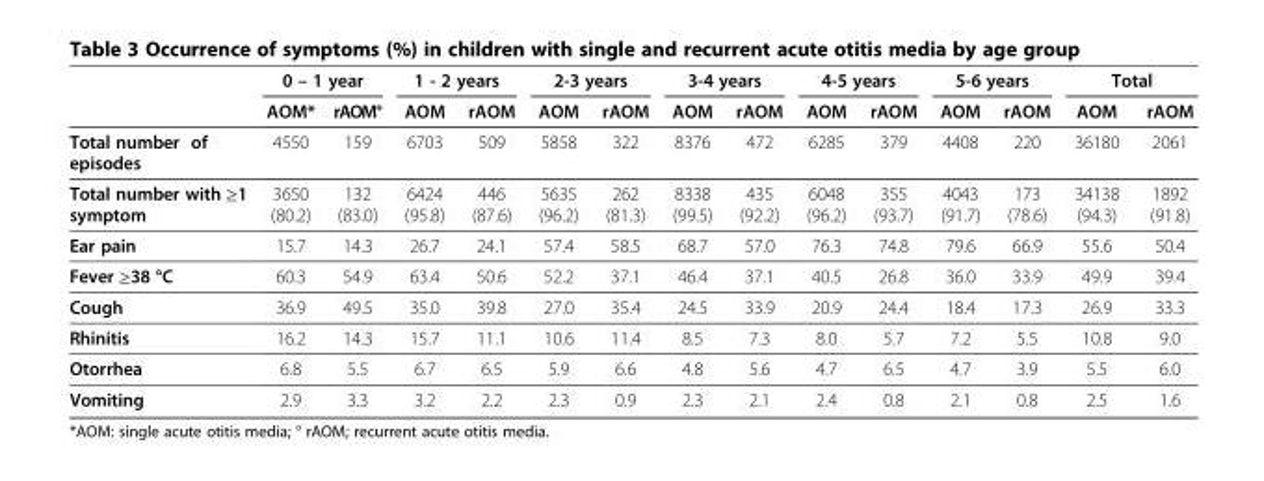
<table><thead><tr><td rowspan="2"></td><td colspan="2">0 – 1 year</td><td colspan="2">1 - 2 years</td><td colspan="2">2-3 years</td><td colspan="2">3-4 years</td><td colspan="2">4-5 years</td><td colspan="2">5-6 years</td><td colspan="2">Total</td></tr><tr><td>AOM*</td><td>rAOM°</td><td>AOM</td><td>rAOM</td><td>AOM</td><td>rAOM</td><td>AOM</td><td>rAOM</td><td>AOM</td><td>rAOM</td><td>AOM</td><td>rAOM</td><td>AOM</td><td>rAOM</td></tr></thead><tbody><tr><td>Total number of episodes</td><td>4550</td><td>159</td><td>6703</td><td>509</td><td>5858</td><td>322</td><td>8376</td><td>472</td><td>6285</td><td>379</td><td>4408</td><td>220</td><td>36180</td><td>2061</td></tr><tr><td>Total number with ≥1 symptom</td><td>3650 (80.2)</td><td>132 (83.0)</td><td>6424 (95.8)</td><td>446 (87.6)</td><td>5635 (96.2)</td><td>262 (81.3)</td><td>8338 (99.5)</td><td>435 (92.2)</td><td>6048 (96.2)</td><td>355 (93.7)</td><td>4043 (91.7)</td><td>173 (78.6)</td><td>34138 (94.3)</td><td>1892 (91.8)</td></tr><tr><td>Ear pain</td><td>15.7</td><td>14.3</td><td>26.7</td><td>24.1</td><td>57.4</td><td>58.5</td><td>68.7</td><td>57.0</td><td>76.3</td><td>74.8</td><td>79.6</td><td>66.9</td><td>55.6</td><td>50.4</td></tr><tr><td>Fever ≥38 °C</td><td>60.3</td><td>54.9</td><td>63.4</td><td>50.6</td><td>52.2</td><td>37.1</td><td>46.4</td><td>37.1</td><td>40.5</td><td>26.8</td><td>36.0</td><td>33.9</td><td>49.9</td><td>39.4</td></tr><tr><td>Cough</td><td>36.9</td><td>49.5</td><td>35.0</td><td>39.8</td><td>27.0</td><td>35.4</td><td>24.5</td><td>33.9</td><td>20.9</td><td>24.4</td><td>18.4</td><td>17.3</td><td>26.9</td><td>33.3</td></tr><tr><td>Rhinitis</td><td>16.2</td><td>14.3</td><td>15.7</td><td>11.1</td><td>10.6</td><td>11.4</td><td>8.5</td><td>7.3</td><td>8.0</td><td>5.7</td><td>7.2</td><td>5.5</td><td>10.8</td><td>9.0</td></tr><tr><td>Otorrhea</td><td>6.8</td><td>5.5</td><td>6.7</td><td>6.5</td><td>5.9</td><td>6.6</td><td>4.8</td><td>5.6</td><td>4.7</td><td>6.5</td><td>4.7</td><td>3.9</td><td>5.5</td><td>6.0</td></tr><tr><td>Vomiting</td><td>2.9</td><td>3.3</td><td>3.2</td><td>2.2</td><td>2.3</td><td>0.9</td><td>2.3</td><td>2.1</td><td>2.4</td><td>0.8</td><td>2.1</td><td>0.8</td><td>2.5</td><td>1.6</td></tr></tbody></table>